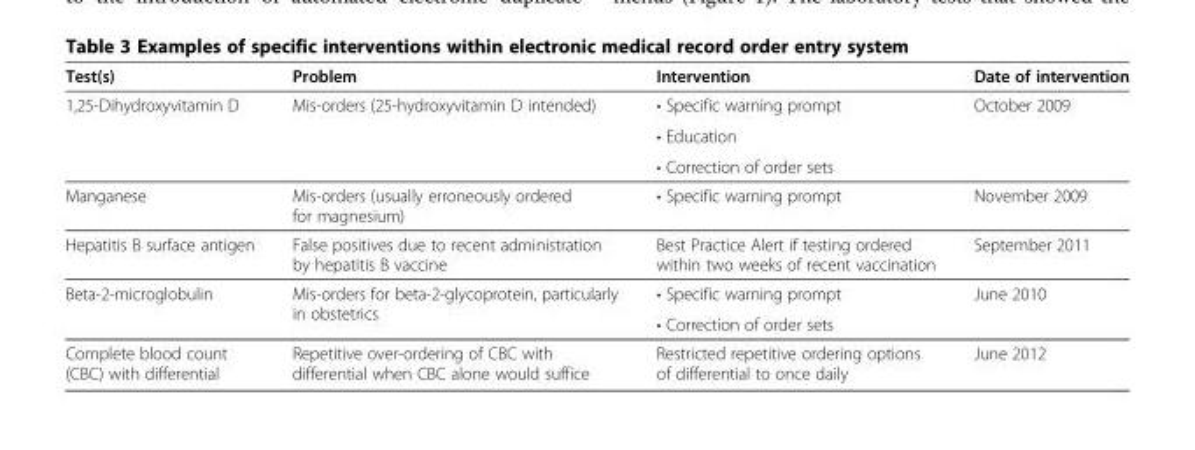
<table><thead><tr><td>Test(s)</td><td>Problem</td><td>Intervention</td><td>Date of intervention</td></tr></thead><tbody><tr><td rowspan="3">1,25-Dihydroxyvitamin D</td><td rowspan="3">Mis-orders (25-hydroxyvitamin D intended)</td><td>• Specific warning prompt</td><td rowspan="3">October 2009</td></tr><tr><td>• Education</td></tr><tr><td>• Correction of order sets</td></tr><tr><td>Manganese</td><td>Mis-orders (usually erroneously ordered for magnesium)</td><td>• Specific warning prompt</td><td>November 2009</td></tr><tr><td>Hepatitis B surface antigen</td><td>False positives due to recent administration by hepatitis B vaccine</td><td>Best Practice Alert if testing ordered within two weeks of recent vaccination</td><td>September 2011</td></tr><tr><td rowspan="2">Beta-2-microglobulin</td><td rowspan="2">Mis-orders for beta-2-glycoprotein, particularly in obstetrics</td><td>• Specific warning prompt</td><td rowspan="2">June 2010</td></tr><tr><td>• Correction of order sets</td></tr><tr><td>Complete blood count (CBC) with differential</td><td>Repetitive over-ordering of CBC with differential when CBC alone would suffice</td><td>Restricted repetitive ordering options of differential to once daily</td><td>June 2012</td></tr></tbody></table>